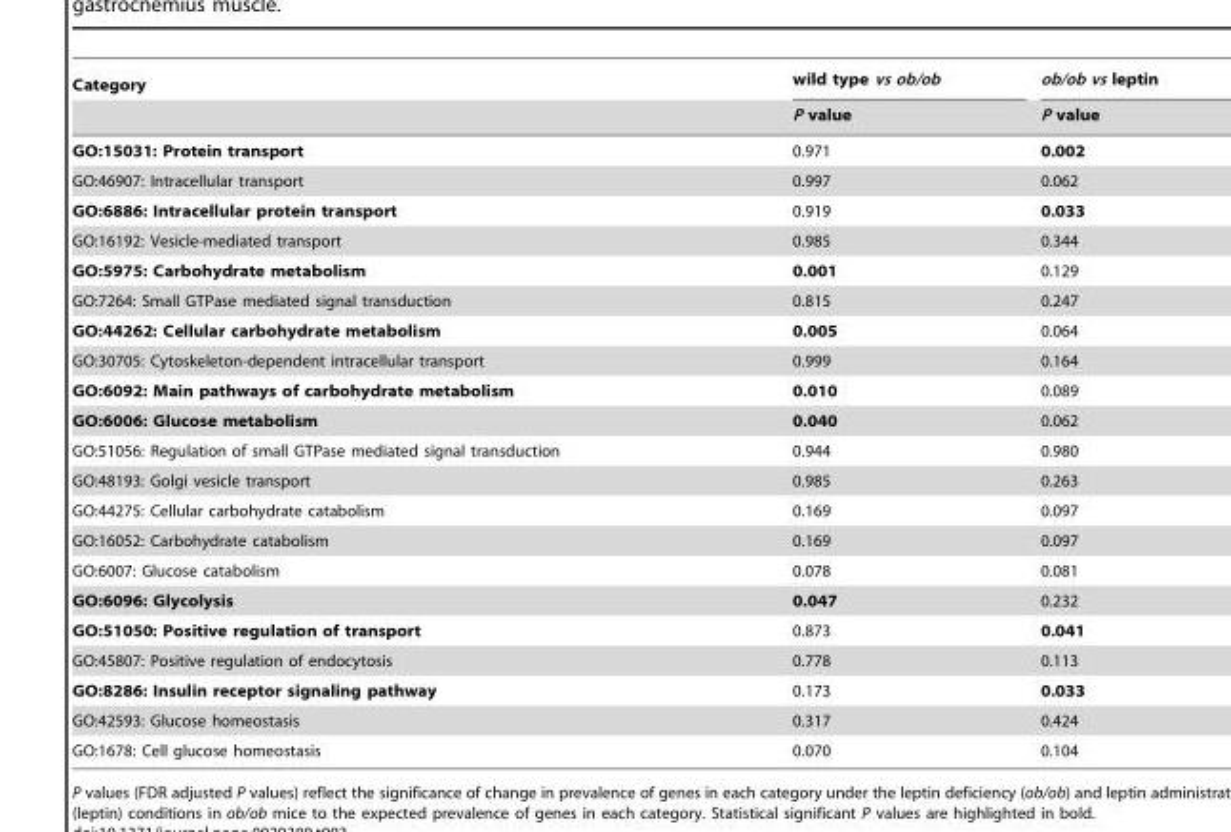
<table><thead><tr><td rowspan="2">Category</td><td rowspan="2">wild type vs ob/ob P value</td><td rowspan="2">ob/ob vs leptin P value</td></tr><tr></tr></thead><tbody><tr><td>GO:15031: Protein transport</td><td>0.971</td><td>0.002</td></tr><tr><td>GO:46907: Intracellular transport</td><td>0.997</td><td>0.062</td></tr><tr><td>GO:6886: Intracellular protein transport</td><td>0.919</td><td>0.033</td></tr><tr><td>GO:16192: Vesicle-mediated transport</td><td>0.985</td><td>0.344</td></tr><tr><td>GO:5975: Carbohydrate metabolism</td><td>0.001</td><td>0.129</td></tr><tr><td>GO:7264: Small GTPase mediated signal transduction</td><td>0.815</td><td>0.247</td></tr><tr><td>GO:44262: Cellular carbohydrate metabolism</td><td>0.005</td><td>0.064</td></tr><tr><td>GO:30705: Cytoskeleton-dependent intracellular transport</td><td>0.999</td><td>0.164</td></tr><tr><td>GO:6092: Main pathways of carbohydrate metabolism</td><td>0.010</td><td>0.089</td></tr><tr><td>GO:6006: Glucose metabolism</td><td>0.040</td><td>0.062</td></tr><tr><td>GO:51056: Regulation of small GTPase mediated signal transduction</td><td>0.944</td><td>0.980</td></tr><tr><td>GO:48193: Golgi vesicle transport</td><td>0.985</td><td>0.263</td></tr><tr><td>GO:44275: Cellular carbohydrate catabolism</td><td>0.169</td><td>0.097</td></tr><tr><td>GO:16052: Carbohydrate catabolism</td><td>0.169</td><td>0.097</td></tr><tr><td>GO:6007: Glucose catabolism</td><td>0.078</td><td>0.081</td></tr><tr><td>GO:6096: Glycolysis</td><td>0.047</td><td>0.232</td></tr><tr><td>GO:51050: Positive regulation of transport</td><td>0.873</td><td>0.041</td></tr><tr><td>GO:45807: Positive regulation of endocytosis</td><td>0.778</td><td>0.113</td></tr><tr><td>GO:8286: Insulin receptor signaling pathway</td><td>0.173</td><td>0.033</td></tr><tr><td>GO:42593: Glucose homeostasis</td><td>0.317</td><td>0.424</td></tr><tr><td>GO:1678: Cell glucose homeostasis</td><td>0.070</td><td>0.104</td></tr></tbody></table>